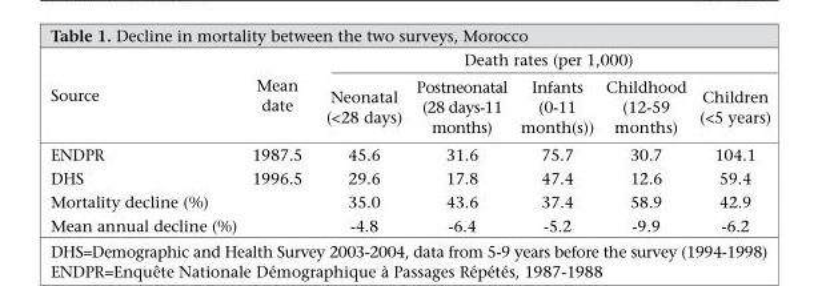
<table><thead><tr><td rowspan="2">Source</td><td rowspan="2">Mean date</td><td colspan="5">Death rates (per 1,000)</td></tr><tr><td>Neonatal (&lt;28 days)</td><td>Postneonatal (28 days-11 months)</td><td>Infants (0-11 month(s))</td><td>Childhood (12-59 months)</td><td>Children (&lt;5 years)</td></tr></thead><tbody><tr><td>ENDPR</td><td>1987.5</td><td>45.6</td><td>31.6</td><td>75.7</td><td>30.7</td><td>104.1</td></tr><tr><td>DHS</td><td>1996.5</td><td>29.6</td><td>17.8</td><td>47.4</td><td>12.6</td><td>59.4</td></tr><tr><td>Mortality decline (%)</td><td></td><td>35.0</td><td>43.6</td><td>37.4</td><td>58.9</td><td>42.9</td></tr><tr><td>Mean annual decline (%)</td><td></td><td>-4.8</td><td>-6.4</td><td>-5.2</td><td>-9.9</td><td>-6.2</td></tr></tbody></table>